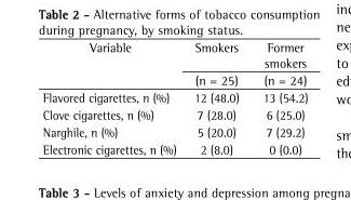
<table><thead><tr><td rowspan="2">Variable</td><td rowspan="2">Smokers (n = 25)</td><td rowspan="2">Former smokers (n = 24)</td></tr><tr></tr></thead><tbody><tr><td>Flavored cigarettes, n (%)</td><td>12 (48.0)</td><td>13 (54.2)</td></tr><tr><td>Clove cigarettes, n (%)</td><td>7 (28.0)</td><td>6 (25.0)</td></tr><tr><td>Narghile, n (%)</td><td>5 (20.0)</td><td>7 (29.2)</td></tr><tr><td>Electronic cigarettes, n (%)</td><td>2 (8.0)</td><td>0 (0.0)</td></tr></tbody></table>